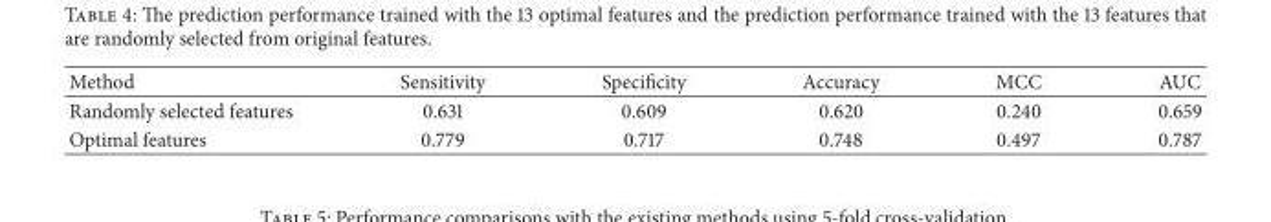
<table><thead><tr><td>Method</td><td>Sensitivity</td><td>Specificity</td><td>Accuracy</td><td>MCC</td><td>AUC</td></tr></thead><tbody><tr><td>Randomly selected features</td><td>0.631</td><td>0.609</td><td>0.620</td><td>0.240</td><td>0.659</td></tr><tr><td>Optimal features</td><td>0.779</td><td>0.717</td><td>0.748</td><td>0.497</td><td>0.787</td></tr></tbody></table>